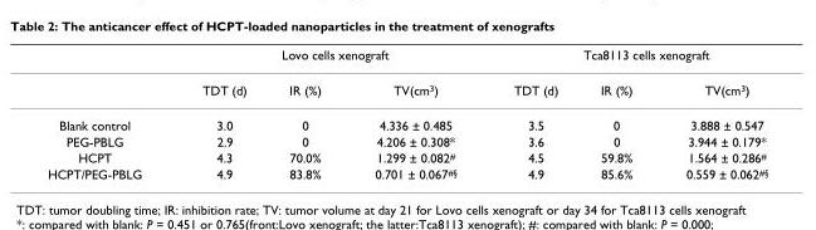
<table><thead><tr><td rowspan="2"></td><td colspan="3">Lovo cells xenograft</td><td colspan="3">Tca8113 cells xenograft</td></tr><tr><td>TDT (d)</td><td>IR (%)</td><td>TV(cm<sup>3</sup>)</td><td>TDT (d)</td><td>IR (%)</td><td>TV(cm<sup>3</sup>)</td></tr></thead><tbody><tr><td>Blank control</td><td>3.0</td><td>0</td><td>4.336 ± 0.485</td><td>3.5</td><td>0</td><td>3.888 ± 0.547</td></tr><tr><td>PEG-PBLG</td><td>2.9</td><td>0</td><td>4.206 ± 0.308*</td><td>3.6</td><td>0</td><td>3.944 ± 0.179*</td></tr><tr><td>HCPT</td><td>4.3</td><td>70.0%</td><td>1.299 ± 0.082<sup>#</sup></td><td>4.5</td><td>59.8%</td><td>1.564 ± 0.286<sup>#</sup></td></tr><tr><td>HCPT/PEG-PBLG</td><td>4.9</td><td>83.8%</td><td>0.701 ± 0.067<sup>#§</sup></td><td>4.9</td><td>85.6%</td><td>0.559 ± 0.062<sup>#§</sup></td></tr></tbody></table>